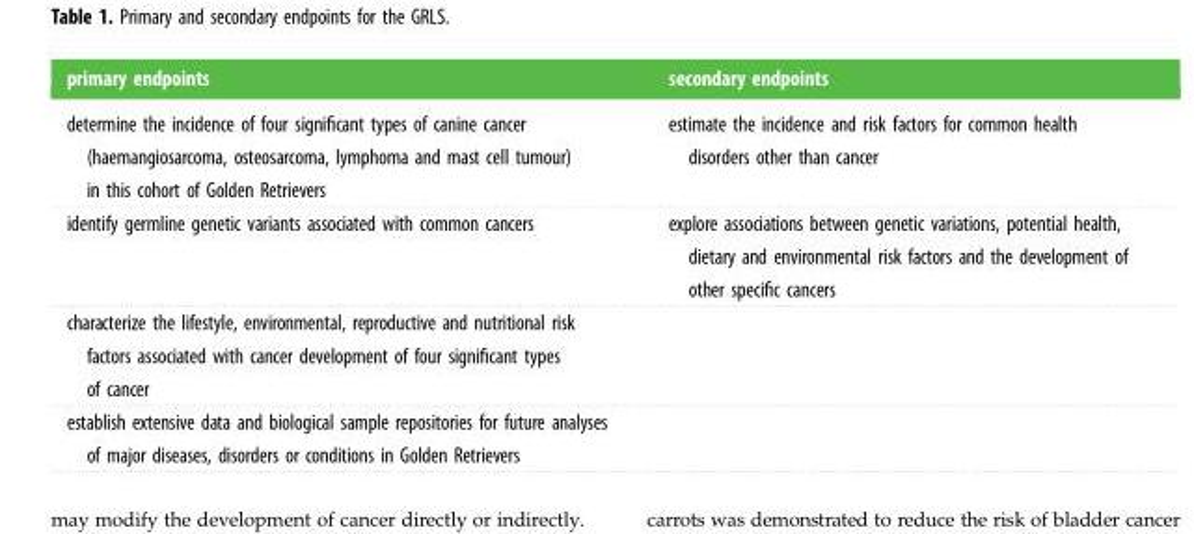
<table><thead><tr><td>primary endpoints</td><td>secondary endpoints</td></tr></thead><tbody><tr><td>determine the incidence of four significant types of canine cancer (haemangiosarcoma, osteosarcoma, lymphoma and mast cell tumour) in this cohort of Golden Retrievers</td><td>estimate the incidence and risk factors for common health disorders other than cancer</td></tr><tr><td>identify germline genetic variants associated with common cancers</td><td>explore associations between genetic variations, potential health, dietary and environmental risk factors and the development of other specific cancers</td></tr><tr><td colspan="2">characterize the lifestyle, environmental, reproductive and nutritional risk factors associated with cancer development of four significant types of cancer</td></tr><tr><td>establish extensive data and biological sample repositories for future analyses of major diseases, disorders or conditions in Golden Retrievers</td><td></td></tr></tbody></table>